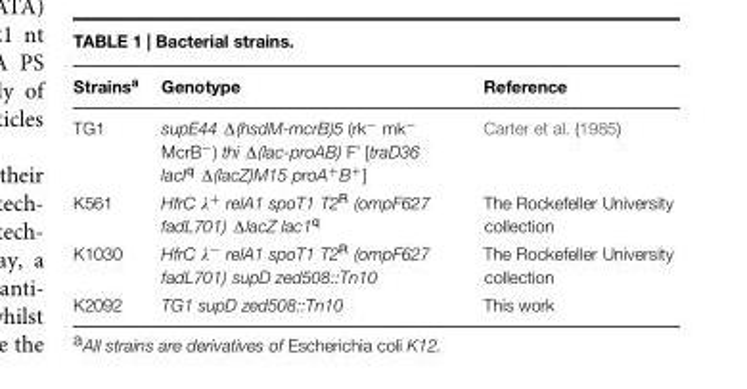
<table><thead><tr><td>Strains<sup>a</sup></td><td>Genotype</td><td>Reference</td></tr></thead><tbody><tr><td>TG1</td><td>supE44 Δ(hsdM-mcrB)5 (rk<sup>−</sup> mk<sup>−</sup> McrB<sup>−</sup>) thi Δ(lac-proAB) F’ [traD36 lacI<sup>q</sup> Δ(lacZ)M15 proA<sup>+</sup>B<sup>+</sup>]</td><td>Carter et al. (1985)</td></tr><tr><td>K561</td><td>HfrC λ<sup>+</sup> relA1 spoT1 T2<sup>R</sup> (ompF627 fadL701) ΔlacZ lac1<sup>q</sup></td><td>The Rockefeller University collection</td></tr><tr><td>K1030</td><td>HfrC λ<sup>−</sup> relA1 spoT1 T2<sup>R</sup> (ompF627 fadL701) supD zed508::Tn10</td><td>The Rockefeller University collection</td></tr><tr><td>K2092</td><td>TG1 supD zed508::Tn10</td><td>This work</td></tr></tbody></table>